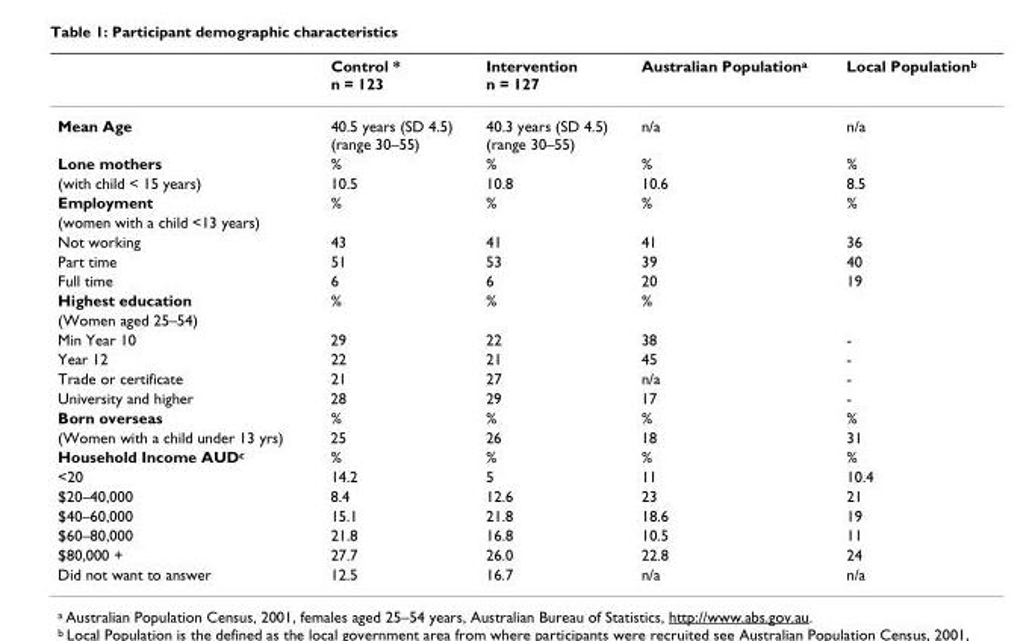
<table><thead><tr><td></td><td>Control * n = 123</td><td>Intervention n = 127</td><td>Australian Population<sup>a</sup></td><td>Local Population<sup>b</sup></td></tr></thead><tbody><tr><td>Mean Age</td><td>40.5 years (SD 4.5) (range 30–55)</td><td>40.3 years (SD 4.5) (range 30–55)</td><td>n/a</td><td>n/a</td></tr><tr><td>Lone mothers</td><td>%</td><td>%</td><td>%</td><td>%</td></tr><tr><td>(with child &lt; 15 years)</td><td>10.5</td><td>10.8</td><td>10.6</td><td>8.5</td></tr><tr><td>Employment</td><td>%</td><td>%</td><td>%</td><td>%</td></tr><tr><td colspan="5">(women with a child &lt;13 years)</td></tr><tr><td>Not working</td><td>43</td><td>41</td><td>41</td><td>36</td></tr><tr><td>Part time</td><td>51</td><td>53</td><td>39</td><td>40</td></tr><tr><td>Full time</td><td>6</td><td>6</td><td>20</td><td>19</td></tr><tr><td>Highest education</td><td>%</td><td>%</td><td>%</td><td></td></tr><tr><td colspan="5">(Women aged 25–54)</td></tr><tr><td>Min Year 10</td><td>29</td><td>22</td><td>38</td><td>-</td></tr><tr><td>Year 12</td><td>22</td><td>21</td><td>45</td><td>-</td></tr><tr><td>Trade or certificate</td><td>21</td><td>27</td><td>n/a</td><td>-</td></tr><tr><td>University and higher</td><td>28</td><td>29</td><td>17</td><td>-</td></tr><tr><td>Born overseas</td><td>%</td><td>%</td><td>%</td><td>%</td></tr><tr><td>(Women with a child under 13 yrs)</td><td>25</td><td>26</td><td>18</td><td>31</td></tr><tr><td>Household Income AUD<sup>c</sup></td><td>%</td><td>%</td><td>%</td><td>%</td></tr><tr><td>&lt;20</td><td>14.2</td><td>5</td><td>11</td><td>10.4</td></tr><tr><td>$20–40,000</td><td>8.4</td><td>12.6</td><td>23</td><td>21</td></tr><tr><td>$40–60,000</td><td>15.1</td><td>21.8</td><td>18.6</td><td>19</td></tr><tr><td>$60–80,000</td><td>21.8</td><td>16.8</td><td>10.5</td><td>11</td></tr><tr><td>$80,000 +</td><td>27.7</td><td>26.0</td><td>22.8</td><td>24</td></tr><tr><td>Did not want to answer</td><td>12.5</td><td>16.7</td><td>n/a</td><td>n/a</td></tr></tbody></table>